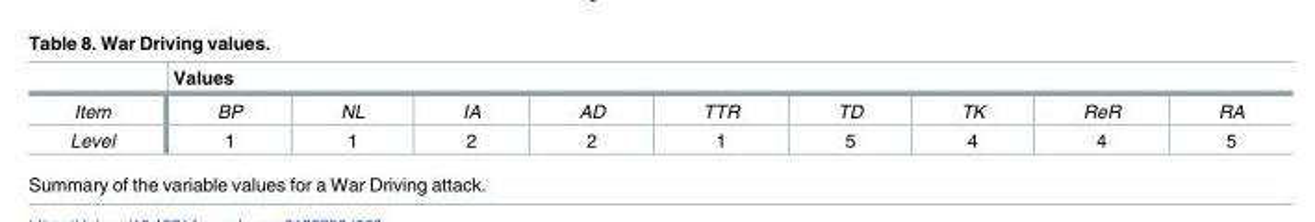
<table><thead><tr><td rowspan="2">Item</td><td colspan="9">Values</td></tr><tr><td>BP</td><td>NL</td><td>IA</td><td>AD</td><td>TTR</td><td>TD</td><td>TK</td><td>ReR</td><td>RA</td></tr></thead><tbody><tr><td>Level</td><td>1</td><td>1</td><td>2</td><td>2</td><td>1</td><td>5</td><td>4</td><td>4</td><td>5</td></tr></tbody></table>